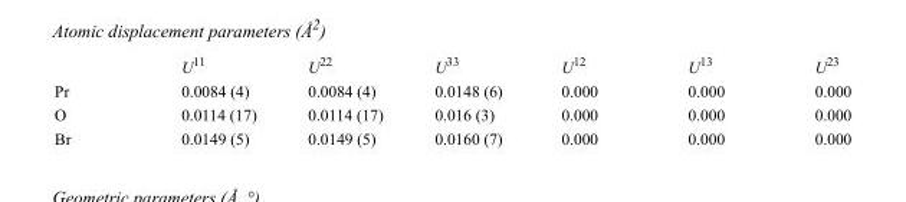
<table><thead><tr><td></td><td>U<sup>11</sup></td><td>U<sup>22</sup></td><td>U<sup>33</sup></td><td>U<sup>12</sup></td><td>U<sup>13</sup></td><td>U<sup>23</sup></td></tr></thead><tbody><tr><td>Pr</td><td>0.0084 (4)</td><td>0.0084 (4)</td><td>0.0148 (6)</td><td>0.000</td><td>0.000</td><td>0.000</td></tr><tr><td>O</td><td>0.0114 (17)</td><td>0.0114 (17)</td><td>0.016 (3)</td><td>0.000</td><td>0.000</td><td>0.000</td></tr><tr><td>Br</td><td>0.0149 (5)</td><td>0.0149 (5)</td><td>0.0160 (7)</td><td>0.000</td><td>0.000</td><td>0.000</td></tr></tbody></table>